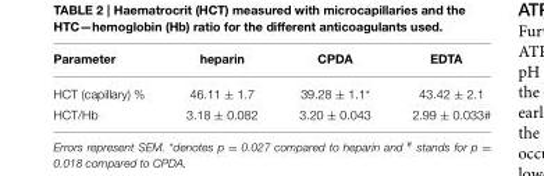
<table><thead><tr><td>Parameter</td><td>heparin</td><td>CPDA</td><td>EDTA</td></tr></thead><tbody><tr><td>HCT (capillary) %</td><td>46.11 ± 1.7</td><td>39.28 ± 1.1*</td><td>43.42 ± 2.1</td></tr><tr><td>HCT/Hb</td><td>3.18 ± 0.082</td><td>3.20 ± 0.043</td><td>2.99 ± 0.033#</td></tr></tbody></table>